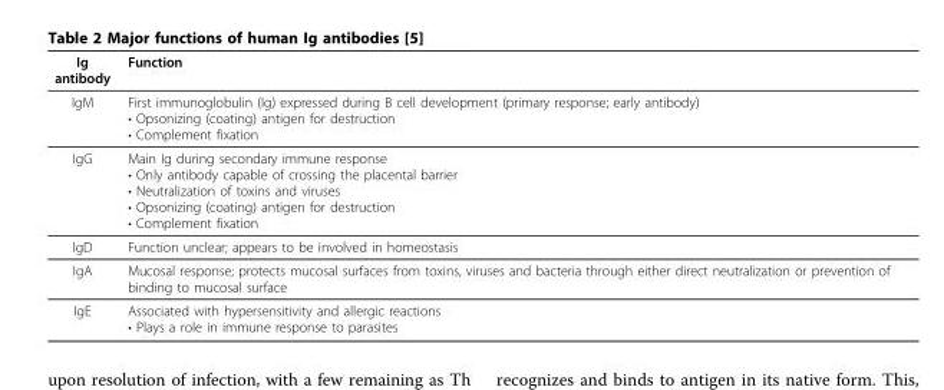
<table><thead><tr><td>Ig antibody</td><td>Function</td></tr></thead><tbody><tr><td>IgM</td><td>First immunoglobulin (Ig) expressed during B cell development (primary response; early antibody) • Opsonizing (coating) antigen for destruction • Complement fixation</td></tr><tr><td>IgG</td><td>Main Ig during secondary immune response • Only antibody capable of crossing the placental barrier • Neutralization of toxins and viruses • Opsonizing (coating) antigen for destruction • Complement fixation</td></tr><tr><td>IgD</td><td>Function unclear; appears to be involved in homeostasis</td></tr><tr><td>IgA</td><td>Mucosal response; protects mucosal surfaces from toxins, viruses and bacteria through either direct neutralization or prevention of binding to mucosal surface</td></tr><tr><td>IgE</td><td>Associated with hypersensitivity and allergic reactions • Plays a role in immune response to parasites</td></tr></tbody></table>